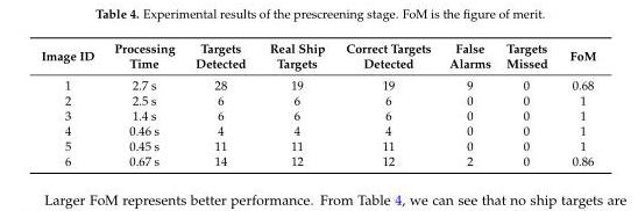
<table><thead><tr><td>Image ID</td><td>Processing Time</td><td>Targets Detected</td><td>Real Ship Targets</td><td>Correct Targets Detected</td><td>False Alarms</td><td>Targets Missed</td><td>FoM</td></tr></thead><tbody><tr><td>1</td><td>2.7 s</td><td>28</td><td>19</td><td>19</td><td>9</td><td>0</td><td>0.68</td></tr><tr><td>2</td><td>2.5 s</td><td>6</td><td>6</td><td>6</td><td>0</td><td>0</td><td>1</td></tr><tr><td>3</td><td>1.4 s</td><td>6</td><td>6</td><td>6</td><td>0</td><td>0</td><td>1</td></tr><tr><td>4</td><td>0.46 s</td><td>4</td><td>4</td><td>4</td><td>0</td><td>0</td><td>1</td></tr><tr><td>5</td><td>0.45 s</td><td>11</td><td>11</td><td>11</td><td>0</td><td>0</td><td>1</td></tr><tr><td>6</td><td>0.67 s</td><td>14</td><td>12</td><td>12</td><td>2</td><td>0</td><td>0.86</td></tr></tbody></table>